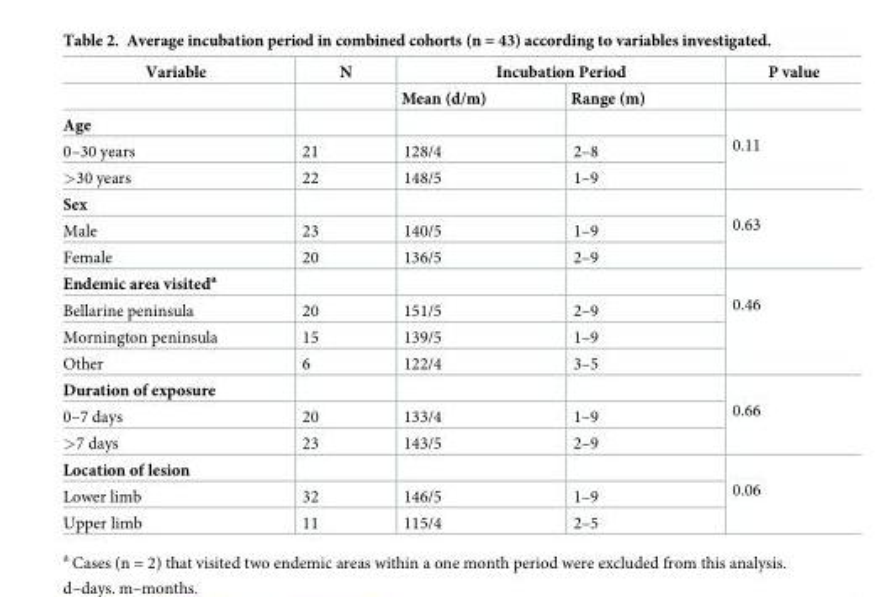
<table><thead><tr><td rowspan="2">Variable</td><td rowspan="2">N</td><td colspan="2">Incubation Period</td><td rowspan="2">P value</td></tr><tr><td>Mean (d/m)</td><td>Range (m)</td></tr></thead><tbody><tr><td colspan="4">Age</td><td rowspan="3">0.11</td></tr><tr><td>0–30 years</td><td>21</td><td>128/4</td><td>2–8</td></tr><tr><td>&gt;30 years</td><td>22</td><td>148/5</td><td>1–9</td></tr><tr><td colspan="4">Sex</td><td rowspan="3">0.63</td></tr><tr><td>Male</td><td>23</td><td>140/5</td><td>1–9</td></tr><tr><td>Female</td><td>20</td><td>136/5</td><td>2–9</td></tr><tr><td colspan="4">Endemic area visited<sup>a</sup></td><td rowspan="4">0.46</td></tr><tr><td>Bellarine peninsula</td><td>20</td><td>151/5</td><td>2–9</td></tr><tr><td>Mornington peninsula</td><td>15</td><td>139/5</td><td>1–9</td></tr><tr><td>Other</td><td>6</td><td>122/4</td><td>3–5</td></tr><tr><td colspan="4">Duration of exposure</td><td rowspan="3">0.66</td></tr><tr><td>0–7 days</td><td>20</td><td>133/4</td><td>1–9</td></tr><tr><td>&gt;7 days</td><td>23</td><td>143/5</td><td>2–9</td></tr><tr><td colspan="4">Location of lesion</td><td rowspan="3">0.06</td></tr><tr><td>Lower limb</td><td>32</td><td>146/5</td><td>1–9</td></tr><tr><td>Upper limb</td><td>11</td><td>115/4</td><td>2–5</td></tr></tbody></table>